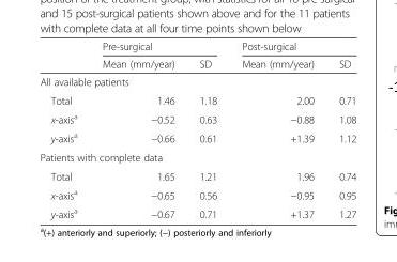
<table><thead><tr><td rowspan="2"></td><td colspan="2">Pre-surgical</td><td colspan="2">Post-surgical</td></tr><tr><td>Mean (mm/year)</td><td>SD</td><td>Mean (mm/year)</td><td>SD</td></tr></thead><tbody><tr><td colspan="5">All available patients</td></tr><tr><td>Total</td><td>1.46</td><td>1.18</td><td>2.00</td><td>0.71</td></tr><tr><td>x-axis<sup>a</sup></td><td>−0.52</td><td>0.63</td><td>−0.88</td><td>1.08</td></tr><tr><td>y-axis<sup>a</sup></td><td>−0.66</td><td>0.61</td><td>+1.39</td><td>1.12</td></tr><tr><td colspan="5">Patients with complete data</td></tr><tr><td>Total</td><td>1.65</td><td>1.21</td><td>1.96</td><td>0.74</td></tr><tr><td>x-axis<sup>a</sup></td><td>−0.65</td><td>0.56</td><td>−0.95</td><td>0.95</td></tr><tr><td>y-axis<sup>a</sup></td><td>−0.67</td><td>0.71</td><td>+1.37</td><td>1.27</td></tr></tbody></table>